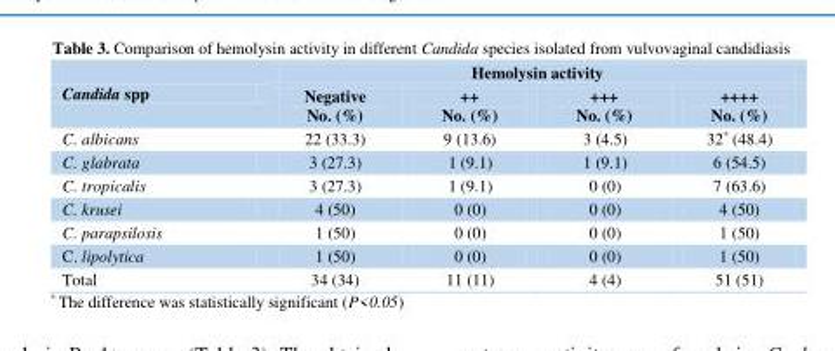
<table><thead><tr><td rowspan="2">Candida spp</td><td colspan="4">Hemolysin activity</td></tr><tr><td>Negative No. (%)</td><td>++ No. (%)</td><td>+++ No. (%)</td><td>++++ No. (%)</td></tr></thead><tbody><tr><td>C. albicans</td><td>22 (33.3)</td><td>9 (13.6)</td><td>3 (4.5)</td><td>32* (48.4)</td></tr><tr><td>C. glabrata</td><td>3 (27.3)</td><td>1 (9.1)</td><td>1 (9.1)</td><td>6 (54.5)</td></tr><tr><td>C. tropicalis</td><td>3 (27.3)</td><td>1 (9.1)</td><td>0 (0)</td><td>7 (63.6)</td></tr><tr><td>C. krusei</td><td>4 (50)</td><td>0 (0)</td><td>0 (0)</td><td>4 (50)</td></tr><tr><td>C. parapsilosis</td><td>1 (50)</td><td>0 (0)</td><td>0 (0)</td><td>1 (50)</td></tr><tr><td>C. lipolytica</td><td>1 (50)</td><td>0 (0)</td><td>0 (0)</td><td>1 (50)</td></tr><tr><td>Total</td><td>34 (34)</td><td>11 (11)</td><td>4 (4)</td><td>51 (51)</td></tr></tbody></table>